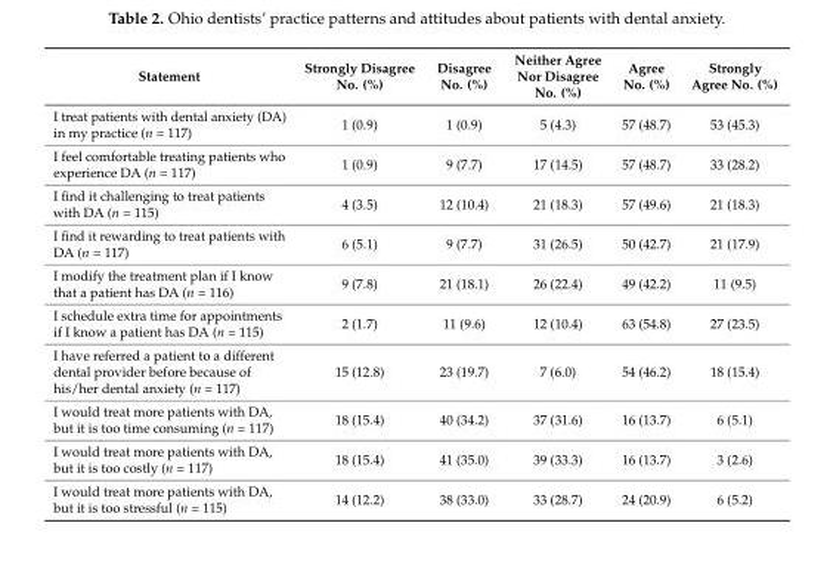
<table><thead><tr><td>Statement</td><td>Strongly Disagree No. (%)</td><td>Disagree No. (%)</td><td>Neither Agree Nor Disagree No. (%)</td><td>Agree No. (%)</td><td>Strongly Agree No. (%)</td></tr></thead><tbody><tr><td>I treat patients with dental anxiety (DA) in my practice (n = 117)</td><td>1 (0.9)</td><td>1 (0.9)</td><td>5 (4.3)</td><td>57 (48.7)</td><td>53 (45.3)</td></tr><tr><td>I feel comfortable treating patients who experience DA (n = 117)</td><td>1 (0.9)</td><td>9 (7.7)</td><td>17 (14.5)</td><td>57 (48.7)</td><td>33 (28.2)</td></tr><tr><td>I find it challenging to treat patients with DA (n = 115)</td><td>4 (3.5)</td><td>12 (10.4)</td><td>21 (18.3)</td><td>57 (49.6)</td><td>21 (18.3)</td></tr><tr><td>I find it rewarding to treat patients with DA (n = 117)</td><td>6 (5.1)</td><td>9 (7.7)</td><td>31 (26.5)</td><td>50 (42.7)</td><td>21 (17.9)</td></tr><tr><td>I modify the treatment plan if I know that a patient has DA (n = 116)</td><td>9 (7.8)</td><td>21 (18.1)</td><td>26 (22.4)</td><td>49 (42.2)</td><td>11 (9.5)</td></tr><tr><td>I schedule extra time for appointments if I know a patient has DA (n = 115)</td><td>2 (1.7)</td><td>11 (9.6)</td><td>12 (10.4)</td><td>63 (54.8)</td><td>27 (23.5)</td></tr><tr><td>I have referred a patient to a different dental provider before because of his/her dental anxiety (n = 117)</td><td>15 (12.8)</td><td>23 (19.7)</td><td>7 (6.0)</td><td>54 (46.2)</td><td>18 (15.4)</td></tr><tr><td>I would treat more patients with DA, but it is too time consuming (n = 117)</td><td>18 (15.4)</td><td>40 (34.2)</td><td>37 (31.6)</td><td>16 (13.7)</td><td>6 (5.1)</td></tr><tr><td>I would treat more patients with DA, but it is too costly (n = 117)</td><td>18 (15.4)</td><td>41 (35.0)</td><td>39 (33.3)</td><td>16 (13.7)</td><td>3 (2.6)</td></tr><tr><td>I would treat more patients with DA, but it is too stressful (n = 115)</td><td>14 (12.2)</td><td>38 (33.0)</td><td>33 (28.7)</td><td>24 (20.9)</td><td>6 (5.2)</td></tr></tbody></table>